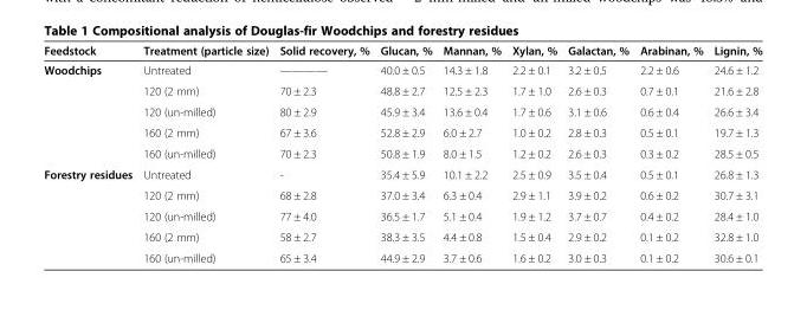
<table><thead><tr><td>Feedstock</td><td>Treatment (particle size)</td><td>Solid recovery, %</td><td>Glucan, %</td><td>Mannan, %</td><td>Xylan, %</td><td>Galactan, %</td><td>Arabinan, %</td><td>Lignin, %</td></tr></thead><tbody><tr><td rowspan="5">Woodchips</td><td>Untreated</td><td>————</td><td>40.0 ± 0.5</td><td>14.3 ± 1.8</td><td>2.2 ± 0.1</td><td>3.2 ± 0.5</td><td>2.2 ± 0.6</td><td>24.6 ± 1.2</td></tr><tr><td>120 (2 mm)</td><td>70 ± 2.3</td><td>48.8 ± 2.7</td><td>12.5 ± 2.3</td><td>1.7 ± 1.0</td><td>2.6 ± 0.3</td><td>0.7 ± 0.1</td><td>21.6 ± 2.8</td></tr><tr><td>120 (un-milled)</td><td>80 ± 2.9</td><td>45.9 ± 3.4</td><td>13.6 ± 0.4</td><td>1.7 ± 0.6</td><td>3.1 ± 0.6</td><td>0.6 ± 0.4</td><td>26.6 ± 3.4</td></tr><tr><td>160 (2 mm)</td><td>67 ± 3.6</td><td>52.8 ± 2.9</td><td>6.0 ± 2.7</td><td>1.0 ± 0.2</td><td>2.8 ± 0.3</td><td>0.5 ± 0.1</td><td>19.7 ± 1.3</td></tr><tr><td>160 (un-milled)</td><td>70 ± 2.3</td><td>50.8 ± 1.9</td><td>8.0 ± 1.5</td><td>1.2 ± 0.2</td><td>2.6 ± 0.3</td><td>0.3 ± 0.2</td><td>28.5 ± 0.5</td></tr><tr><td rowspan="5">Forestry residues</td><td>Untreated</td><td>-</td><td>35.4 ± 5.9</td><td>10.1 ± 2.2</td><td>2.5 ± 0.9</td><td>3.5 ± 0.4</td><td>0.5 ± 0.1</td><td>26.8 ± 1.3</td></tr><tr><td>120 (2 mm)</td><td>68 ± 2.8</td><td>37.0 ± 3.4</td><td>6.3 ± 0.4</td><td>2.9 ± 1.1</td><td>3.9 ± 0.2</td><td>0.6 ± 0.2</td><td>30.7 ± 3.1</td></tr><tr><td>120 (un-milled)</td><td>77 ± 4.0</td><td>36.5 ± 1.7</td><td>5.1 ± 0.4</td><td>1.9 ± 1.2</td><td>3.7 ± 0.7</td><td>0.4 ± 0.2</td><td>28.4 ± 1.0</td></tr><tr><td>160 (2 mm)</td><td>58 ± 2.7</td><td>38.3 ± 3.5</td><td>4.4 ± 0.8</td><td>1.5 ± 0.4</td><td>2.9 ± 0.2</td><td>0.1 ± 0.2</td><td>32.8 ± 1.0</td></tr><tr><td>160 (un-milled)</td><td>65 ± 3.4</td><td>44.9 ± 2.9</td><td>3.7 ± 0.6</td><td>1.6 ± 0.2</td><td>3.0 ± 0.3</td><td>0.1 ± 0.2</td><td>30.6 ± 0.1</td></tr></tbody></table>